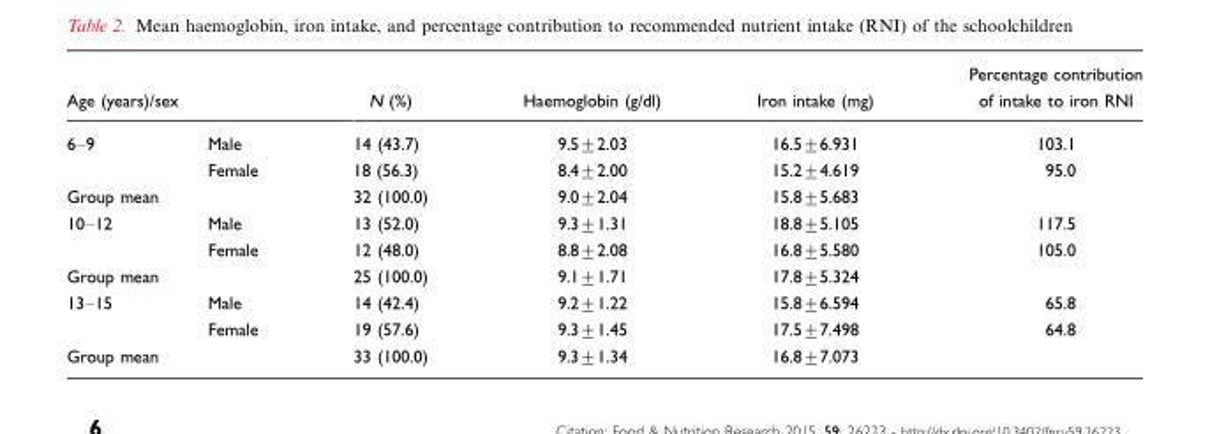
<table><thead><tr><td>Age (years)/sex</td><td></td><td>N (%)</td><td>Haemoglobin (g/dl)</td><td>Iron intake (mg)</td><td>Percentage contribution of intake to iron RNI</td></tr></thead><tbody><tr><td rowspan="2">6–9</td><td>Male</td><td>14 (43.7)</td><td>9.5±2.03</td><td>16.5±6.931</td><td>103.1</td></tr><tr><td>Female</td><td>18 (56.3)</td><td>8.4±2.00</td><td>15.2±4.619</td><td>95.0</td></tr><tr><td colspan="2">Group mean</td><td>32 (100.0)</td><td>9.0±2.04</td><td>15.8±5.683</td><td></td></tr><tr><td rowspan="2">10–12</td><td>Male</td><td>13 (52.0)</td><td>9.3±1.31</td><td>18.8±5.105</td><td>117.5</td></tr><tr><td>Female</td><td>12 (48.0)</td><td>8.8±2.08</td><td>16.8±5.580</td><td>105.0</td></tr><tr><td colspan="2">Group mean</td><td>25 (100.0)</td><td>9.1±1.71</td><td>17.8±5.324</td><td></td></tr><tr><td rowspan="2">13–15</td><td>Male</td><td>14 (42.4)</td><td>9.2±1.22</td><td>15.8±6.594</td><td>65.8</td></tr><tr><td>Female</td><td>19 (57.6)</td><td>9.3±1.45</td><td>17.5±7.498</td><td>64.8</td></tr><tr><td colspan="2">Group mean</td><td>33 (100.0)</td><td>9.3±1.34</td><td>16.8±7.073</td><td></td></tr></tbody></table>